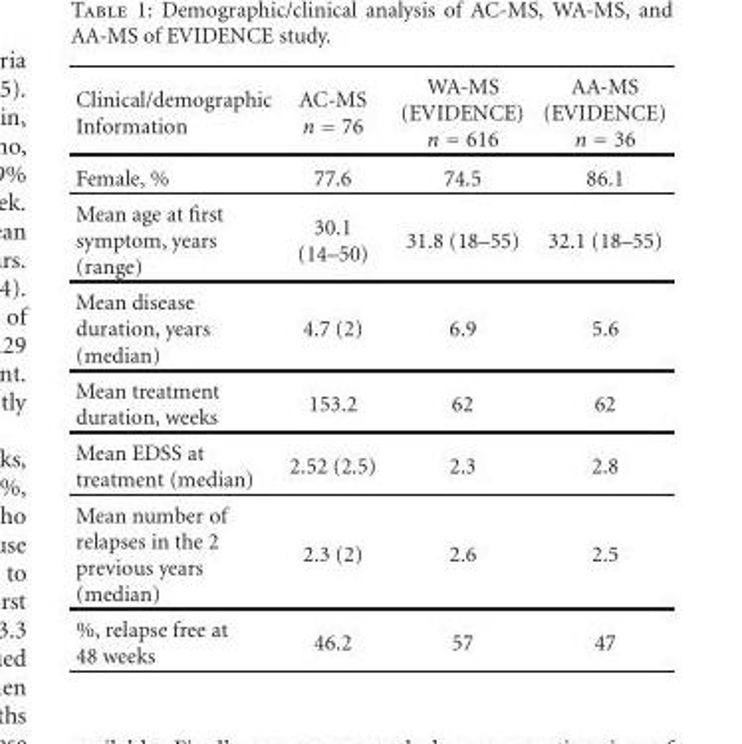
<table><thead><tr><td>Clinical/demographic Information</td><td>AC-MS n = 76</td><td>WA-MS (EVIDENCE) n = 616</td><td>AA-MS (EVIDENCE) n = 36</td></tr></thead><tbody><tr><td>Female, %</td><td>77.6</td><td>74.5</td><td>86.1</td></tr><tr><td>Mean age at first symptom, years (range)</td><td>30.1 (14–50)</td><td>31.8 (18–55)</td><td>32.1 (18–55)</td></tr><tr><td>Mean disease duration, years (median)</td><td>4.7 (2)</td><td>6.9</td><td>5.6</td></tr><tr><td>Mean treatment duration, weeks</td><td>153.2</td><td>62</td><td>62</td></tr><tr><td>Mean EDSS at treatment (median)</td><td>2.52 (2.5)</td><td>2.3</td><td>2.8</td></tr><tr><td>Mean number of relapses in the 2 previous years (median)</td><td>2.3 (2)</td><td>2.6</td><td>2.5</td></tr><tr><td>%, relapse free at 48 weeks</td><td>46.2</td><td>57</td><td>47</td></tr></tbody></table>